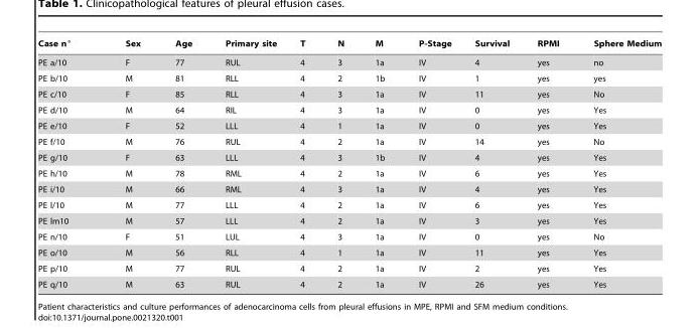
<table><thead><tr><td>Case n°</td><td>Sex</td><td>Age</td><td>Primary site</td><td>T</td><td>N</td><td>M</td><td>P-Stage</td><td>Survival</td><td>RPMI</td><td>Sphere Medium</td></tr></thead><tbody><tr><td>PE a/10</td><td>F</td><td>77</td><td>RUL</td><td>4</td><td>3</td><td>1a</td><td>IV</td><td>4</td><td>yes</td><td>no</td></tr><tr><td>PE b/10</td><td>M</td><td>81</td><td>RLL</td><td>4</td><td>2</td><td>1b</td><td>IV</td><td>1</td><td>yes</td><td>yes</td></tr><tr><td>PE c/10</td><td>F</td><td>85</td><td>RLL</td><td>4</td><td>3</td><td>1a</td><td>IV</td><td>11</td><td>yes</td><td>No</td></tr><tr><td>PE d/10</td><td>M</td><td>64</td><td>RIL</td><td>4</td><td>3</td><td>1a</td><td>IV</td><td>0</td><td>yes</td><td>Yes</td></tr><tr><td>PE e/10</td><td>F</td><td>52</td><td>LLL</td><td>4</td><td>1</td><td>1a</td><td>IV</td><td>0</td><td>yes</td><td>Yes</td></tr><tr><td>PE f/10</td><td>M</td><td>76</td><td>RUL</td><td>4</td><td>2</td><td>1a</td><td>IV</td><td>14</td><td>yes</td><td>No</td></tr><tr><td>PE g/10</td><td>F</td><td>63</td><td>LLL</td><td>4</td><td>3</td><td>1b</td><td>IV</td><td>4</td><td>yes</td><td>Yes</td></tr><tr><td>PE h/10</td><td>M</td><td>78</td><td>RML</td><td>4</td><td>2</td><td>1a</td><td>IV</td><td>6</td><td>yes</td><td>Yes</td></tr><tr><td>PE i/10</td><td>M</td><td>66</td><td>RML</td><td>4</td><td>3</td><td>1a</td><td>IV</td><td>4</td><td>yes</td><td>Yes</td></tr><tr><td>PE l/10</td><td>M</td><td>77</td><td>LLL</td><td>4</td><td>2</td><td>1a</td><td>IV</td><td>6</td><td>yes</td><td>Yes</td></tr><tr><td>PE lm10</td><td>M</td><td>57</td><td>LLL</td><td>4</td><td>2</td><td>1a</td><td>IV</td><td>3</td><td>yes</td><td>Yes</td></tr><tr><td>PE n/10</td><td>F</td><td>51</td><td>LUL</td><td>4</td><td>3</td><td>1a</td><td>IV</td><td>0</td><td>yes</td><td>No</td></tr><tr><td>PE o/10</td><td>M</td><td>56</td><td>RLL</td><td>4</td><td>1</td><td>1a</td><td>IV</td><td>11</td><td>yes</td><td>Yes</td></tr><tr><td>PE p/10</td><td>M</td><td>77</td><td>RUL</td><td>4</td><td>2</td><td>1a</td><td>IV</td><td>2</td><td>yes</td><td>Yes</td></tr><tr><td>PE q/10</td><td>M</td><td>63</td><td>RUL</td><td>4</td><td>2</td><td>1a</td><td>IV</td><td>26</td><td>yes</td><td>Yes</td></tr></tbody></table>